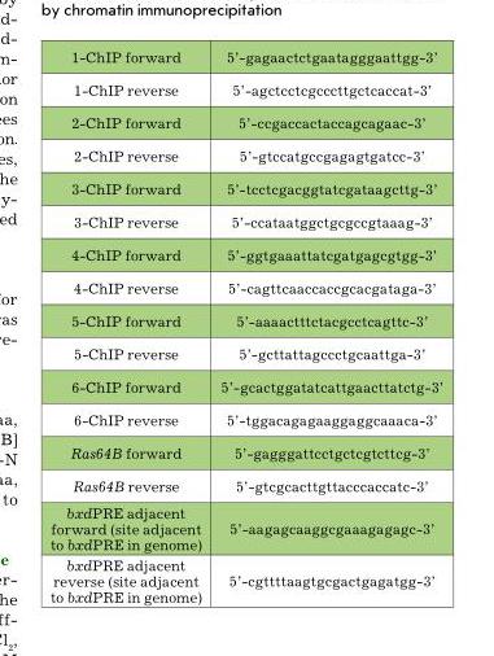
<table><tbody><tr><td>1-ChIP forward</td><td>5’-gagaactctgaatagggaattgg-3’</td></tr><tr><td>1-ChIP reverse</td><td>5’-agctcctcgcccttgctcaccat-3’</td></tr><tr><td>2-ChIP forward</td><td>5’-ccgaccactaccagcagaac-3’</td></tr><tr><td>2-ChIP reverse</td><td>5’-gtccatgccgagagtgatcc-3’</td></tr><tr><td>3-ChIP forward</td><td>5’-tcctcgacggtatcgataagcttg-3’</td></tr><tr><td>3-ChIP reverse</td><td>5’-ccataatggctgcgccgtaaag-3’</td></tr><tr><td>4-ChIP forward</td><td>5’-ggtgaaattatcgatgagcgtgg-3’</td></tr><tr><td>4-ChIP reverse</td><td>5’-cagttcaaccaccgcacgataga-3’</td></tr><tr><td>5-ChIP forward</td><td>5’-aaaactttctacgcctcagttc-3’</td></tr><tr><td>5-ChIP reverse</td><td>5’-gcttattagccctgcaattga-3’</td></tr><tr><td>6-ChIP forward</td><td>5’-gcactggatatcattgaacttatctg-3’</td></tr><tr><td>6-ChIP reverse</td><td>5’-tggacagagaaggaggcaaaca-3’</td></tr><tr><td>Ras64B forward</td><td>5’-gagggattcctgctcgtcttcg-3’</td></tr><tr><td>Ras64B reverse</td><td>5’-gtcgcacttgttacccaccatc-3’</td></tr><tr><td>bxdPRE adjacent forward (site adjacent to bxdPRE in genome)</td><td>5’-aagagcaaggcgaaagagagc-3’</td></tr><tr><td>bxdPRE adjacent reverse (site adjacent to bxdPRE in genome)</td><td>5’-cgttttaagtgcgactgagatgg-3’</td></tr></tbody></table>